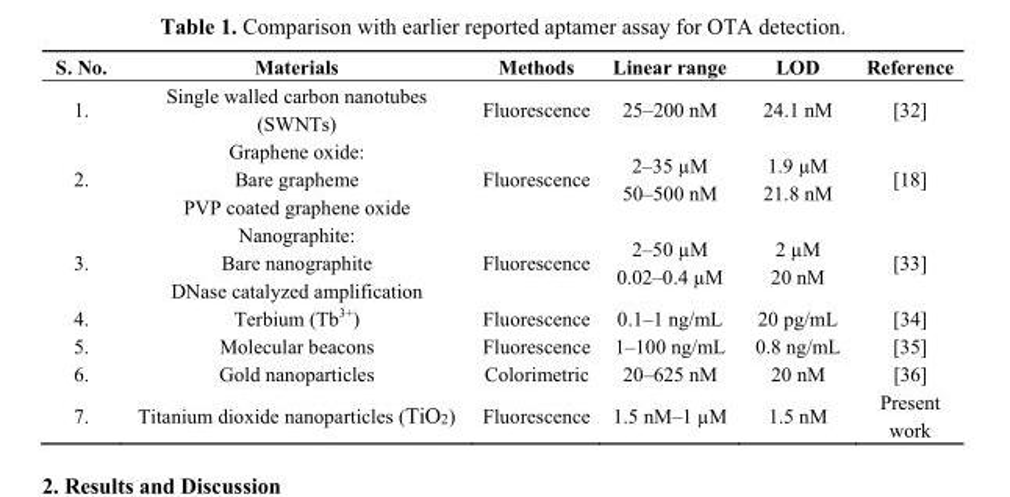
<table><thead><tr><td>S. No.</td><td>Materials</td><td>Methods</td><td>Linear range</td><td>LOD</td><td>Reference</td></tr></thead><tbody><tr><td>1.</td><td>Single walled carbon nanotubes (SWNTs)</td><td>Fluorescence</td><td>25–200 nM</td><td>24.1 nM</td><td>[32]</td></tr><tr><td>2.</td><td>Graphene oxide: Bare grapheme PVP coated graphene oxide</td><td>Fluorescence</td><td>2–35 µM 50–500 nM</td><td>1.9 µM 21.8 nM</td><td>[18]</td></tr><tr><td>3.</td><td>Nanographite: Bare nanographite DNase catalyzed amplification</td><td>Fluorescence</td><td>2–50 µM 0.02–0.4 µM</td><td>2 µM 20 nM</td><td>[33]</td></tr><tr><td>4.</td><td>Terbium (Tb<sup>3+</sup>)</td><td>Fluorescence</td><td>0.1–1 ng/mL</td><td>20 pg/mL</td><td>[34]</td></tr><tr><td>5.</td><td>Molecular beacons</td><td>Fluorescence</td><td>1–100 ng/mL</td><td>0.8 ng/mL</td><td>[35]</td></tr><tr><td>6.</td><td>Gold nanoparticles</td><td>Colorimetric</td><td>20–625 nM</td><td>20 nM</td><td>[36]</td></tr><tr><td>7.</td><td>Titanium dioxide nanoparticles (TiO<sub>2</sub>)</td><td>Fluorescence</td><td>1.5 nM–1 µM</td><td>1.5 nM</td><td>Present work</td></tr></tbody></table>